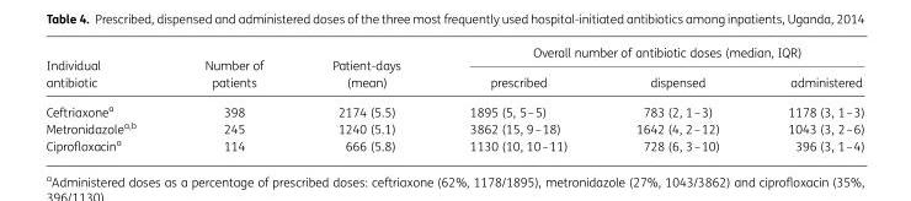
<table><thead><tr><td rowspan="2">Individual antibiotic</td><td rowspan="2">Number of patients</td><td rowspan="2">Patient-days (mean)</td><td colspan="3">Overall number of antibiotic doses (median, IQR)</td></tr><tr><td>prescribed</td><td>dispensed</td><td>administered</td></tr></thead><tbody><tr><td>Ceftriaxone<sup>a</sup></td><td>398</td><td>2174 (5.5)</td><td>1895 (5, 5–5)</td><td>783 (2, 1–3)</td><td>1178 (3, 1–3)</td></tr><tr><td>Metronidazole<sup>a,b</sup></td><td>245</td><td>1240 (5.1)</td><td>3862 (15, 9–18)</td><td>1642 (4, 2–12)</td><td>1043 (3, 2–6)</td></tr><tr><td>Ciprofloxacin<sup>a</sup></td><td>114</td><td>666 (5.8)</td><td>1130 (10, 10–11)</td><td>728 (6, 3–10)</td><td>396 (3, 1–4)</td></tr></tbody></table>